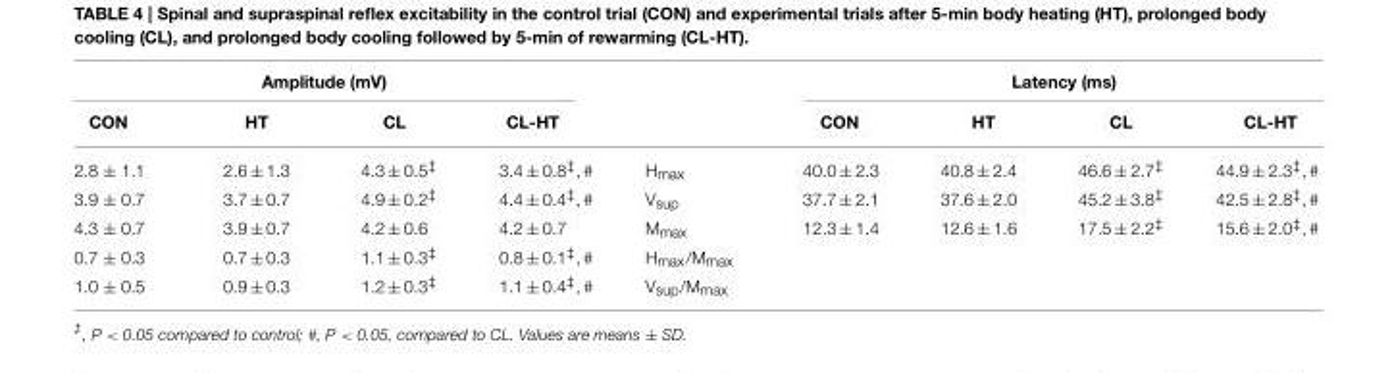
<table><thead><tr><td colspan="4">Amplitude (mV)</td><td rowspan="2"></td><td colspan="4">Latency (ms)</td></tr><tr><td>CON</td><td>HT</td><td>CL</td><td>CL-HT</td><td>CON</td><td>HT</td><td>CL</td><td>CL-HT</td></tr></thead><tbody><tr><td>2.8 ± 1.1</td><td>2.6 ± 1.3</td><td>4.3 ± 0.5<sup>‡</sup></td><td>3.4 ± 0.8<sup>‡</sup>, <sup>#</sup></td><td>H<sub>max</sub></td><td>40.0 ± 2.3</td><td>40.8 ± 2.4</td><td>46.6 ± 2.7<sup>‡</sup></td><td>44.9 ± 2.3<sup>‡</sup>, <sup>#</sup></td></tr><tr><td>3.9 ± 0.7</td><td>3.7 ± 0.7</td><td>4.9 ± 0.2<sup>‡</sup></td><td>4.4 ± 0.4<sup>‡</sup>, <sup>#</sup></td><td>V<sub>sup</sub></td><td>37.7 ± 2.1</td><td>37.6 ± 2.0</td><td>45.2 ± 3.8<sup>‡</sup></td><td>42.5 ± 2.8<sup>‡</sup>, <sup>#</sup></td></tr><tr><td>4.3 ± 0.7</td><td>3.9 ± 0.7</td><td>4.2 ± 0.6</td><td>4.2 ± 0.7</td><td>M<sub>max</sub></td><td>12.3 ± 1.4</td><td>12.6 ± 1.6</td><td>17.5 ± 2.2<sup>‡</sup></td><td>15.6 ± 2.0<sup>‡</sup>, <sup>#</sup></td></tr><tr><td>0.7 ± 0.3</td><td>0.7 ± 0.3</td><td>1.1 ± 0.3<sup>‡</sup></td><td>0.8 ± 0.1<sup>‡</sup>, <sup>#</sup></td><td>H<sub>max</sub>/M<sub>max</sub></td><td></td><td></td><td></td><td></td></tr><tr><td>1.0 ± 0.5</td><td>0.9 ± 0.3</td><td>1.2 ± 0.3<sup>‡</sup></td><td>1.1 ± 0.4<sup>‡</sup>, <sup>#</sup></td><td>V<sub>sup</sub>/M<sub>max</sub></td><td></td><td></td><td></td><td></td></tr></tbody></table>